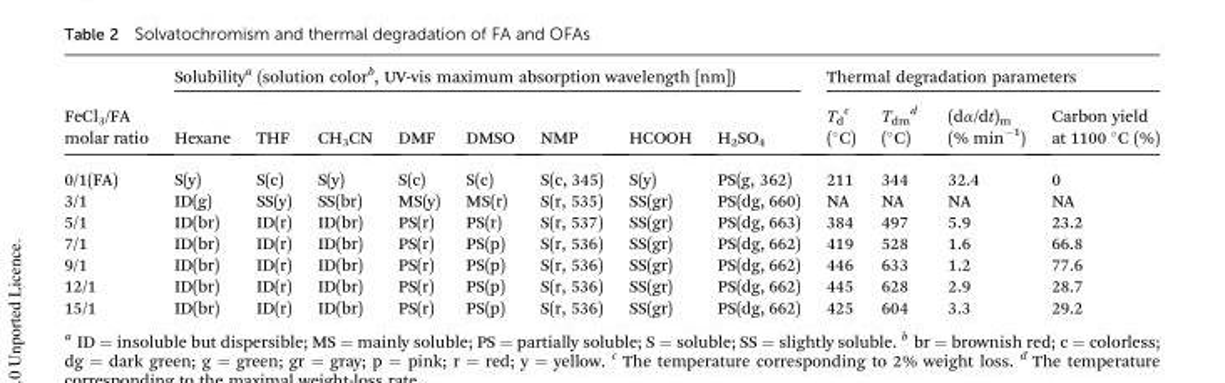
<table><thead><tr><td rowspan="2">FeCl<sub>3</sub>/FA molar ratio</td><td colspan="8">Solubility<sup>a</sup> (solution color<sup>b</sup>, UV-vis maximum absorption wavelength [nm])</td><td colspan="4">Thermal degradation parameters</td></tr><tr><td>Hexane</td><td>THF</td><td>CH<sub>3</sub>CN</td><td>DMF</td><td>DMSO</td><td>NMP</td><td>HCOOH</td><td>H<sub>2</sub>SO<sub>4</sub></td><td>T<sub>d</sub> <sup>c</sup> (°C)</td><td>T<sub>dm</sub> <sup>d</sup> (°C)</td><td>(dα/dt)<sub>m</sub> (% min<sup>–1</sup>)</td><td>Carbon yield at 1100 °C (%)</td></tr></thead><tbody><tr><td>0/1(FA)</td><td>S(y)</td><td>S(c)</td><td>S(y)</td><td>S(c)</td><td>S(c)</td><td>S(c, 345)</td><td>S(y)</td><td>PS(g, 362)</td><td>211</td><td>344</td><td>32.4</td><td>0</td></tr><tr><td>3/1</td><td>ID(g)</td><td>SS(y)</td><td>SS(br)</td><td>MS(y)</td><td>MS(r)</td><td>S(r, 535)</td><td>SS(gr)</td><td>PS(dg, 660)</td><td>NA</td><td>NA</td><td>NA</td><td>NA</td></tr><tr><td>5/1</td><td>ID(br)</td><td>ID(r)</td><td>ID(br)</td><td>PS(r)</td><td>PS(r)</td><td>S(r, 537)</td><td>SS(gr)</td><td>PS(dg, 663)</td><td>384</td><td>497</td><td>5.9</td><td>23.2</td></tr><tr><td>7/1</td><td>ID(br)</td><td>ID(r)</td><td>ID(br)</td><td>PS(r)</td><td>PS(p)</td><td>S(r, 536)</td><td>SS(gr)</td><td>PS(dg, 662)</td><td>419</td><td>528</td><td>1.6</td><td>66.8</td></tr><tr><td>9/1</td><td>ID(br)</td><td>ID(r)</td><td>ID(br)</td><td>PS(r)</td><td>PS(p)</td><td>S(r, 536)</td><td>SS(gr)</td><td>PS(dg, 662)</td><td>446</td><td>633</td><td>1.2</td><td>77.6</td></tr><tr><td>12/1</td><td>ID(br)</td><td>ID(r)</td><td>ID(br)</td><td>PS(r)</td><td>PS(p)</td><td>S(r, 536)</td><td>SS(gr)</td><td>PS(dg, 662)</td><td>445</td><td>628</td><td>2.9</td><td>28.7</td></tr><tr><td>15/1</td><td>ID(br)</td><td>ID(r)</td><td>ID(br)</td><td>PS(r)</td><td>PS(p)</td><td>S(r, 536)</td><td>SS(gr)</td><td>PS(dg, 662)</td><td>425</td><td>604</td><td>3.3</td><td>29.2</td></tr></tbody></table>